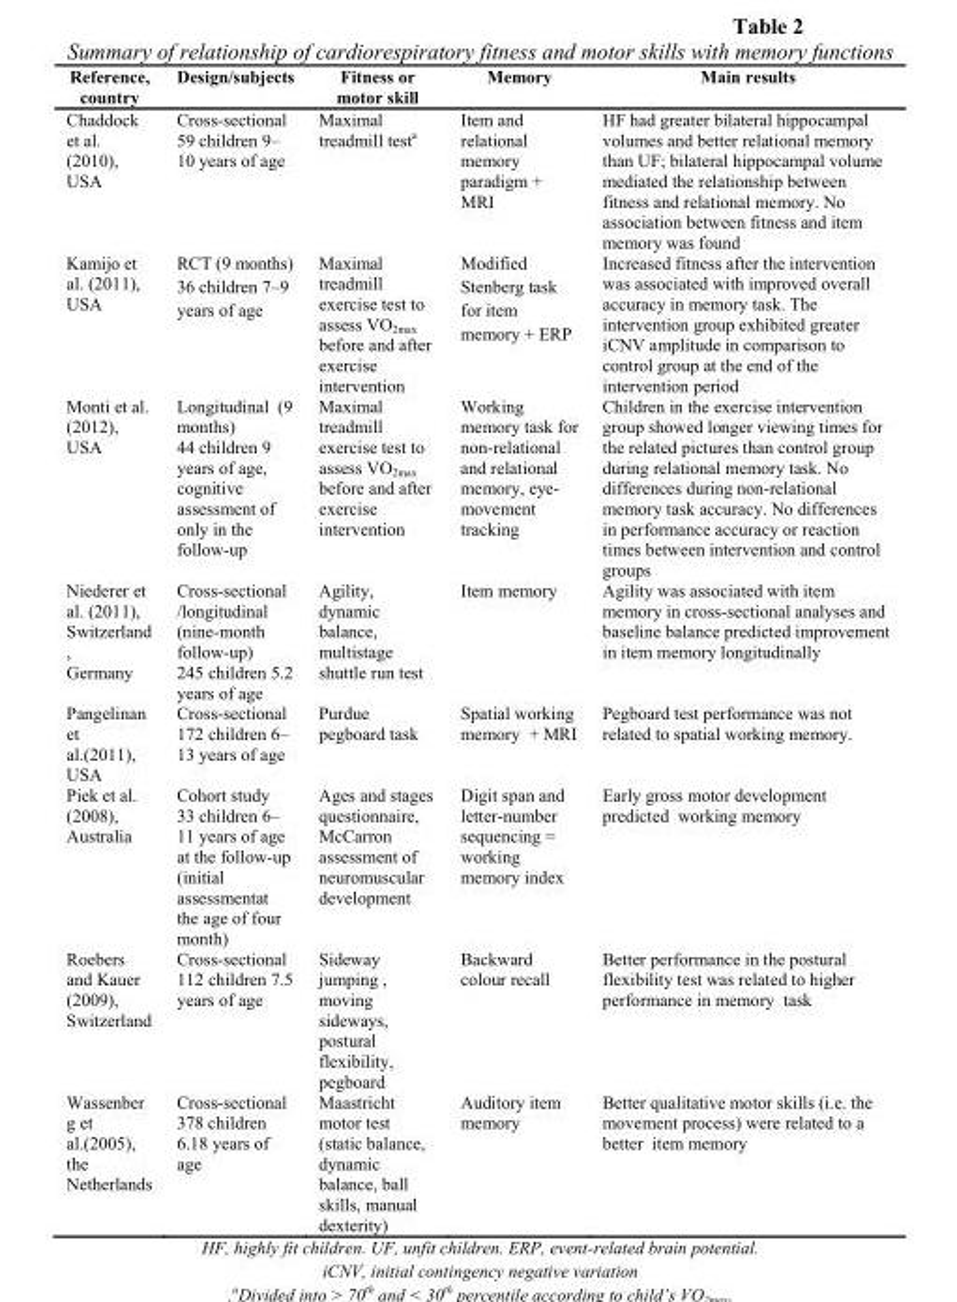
<table><thead><tr><td>Reference, country</td><td>Design/subjects</td><td>Fitness or motor skill</td><td>Memory</td><td>Main results</td></tr></thead><tbody><tr><td>Chaddock et al. (2010), USA</td><td>Cross-sectional 59 children 9– 10 years of age</td><td>Maximal treadmill test<sup>a</sup></td><td>Item and relational memory paradigm + MRI</td><td>HF had greater bilateral hippocampal volumes and better relational memory than UF; bilateral hippocampal volume mediated the relationship between fitness and relational memory. No association between fitness and item memory was found</td></tr><tr><td>Kamijo et al. (2011), USA</td><td>RCT (9 months) 36 children 7–9 years of age</td><td>Maximal treadmill exercise test to assess VO<sub>2max</sub> before and after exercise intervention</td><td>Modified Stenberg task for item memory + ERP</td><td>Increased fitness after the intervention was associated with improved overall accuracy in memory task. The intervention group exhibited greater iCNV amplitude in comparison to control group at the end of the intervention period</td></tr><tr><td>Monti et al. (2012), USA</td><td>Longitudinal (9 months) 44 children 9 years of age, cognitive assessment of only in the follow-up</td><td>Maximal treadmill exercise test to assess VO<sub>2max</sub> before and after exercise intervention</td><td>Working memory task for non-relational and relational memory, eye- movement tracking</td><td>Children in the exercise intervention group showed longer viewing times for the related pictures than control group during relational memory task. No differences during non-relational memory task accuracy. No differences in performance accuracy or reaction times between intervention and control groups</td></tr><tr><td>Niederer et al. (2011), Switzerland , Germany</td><td>Cross-sectional /longitudinal (nine-month follow-up) 245 children 5.2 years of age</td><td>Agility, dynamic balance, multistage shuttle run test</td><td>Item memory</td><td>Agility was associated with item memory in cross-sectional analyses and baseline balance predicted improvement in item memory longitudinally</td></tr><tr><td>Pangelinan et al.(2011), USA</td><td>Cross-sectional 172 children 6– 13 years of age</td><td>Purdue pegboard task</td><td>Spatial working memory + MRI</td><td>Pegboard test performance was not related to spatial working memory.</td></tr><tr><td>Piek et al. (2008), Australia</td><td>Cohort study 33 children 6– 11 years of age at the follow-up (initial assessmentat the age of four month)</td><td>Ages and stages questionnaire, McCarron assessment of neuromuscular development</td><td>Digit span and letter-number sequencing = working memory index</td><td>Early gross motor development predicted working memory</td></tr><tr><td>Roebers and Kauer (2009), Switzerland</td><td>Cross-sectional 112 children 7.5 years of age</td><td>Sideway jumping , moving sideways, postural flexibility, pegboard</td><td>Backward colour recall</td><td>Better performance in the postural flexibility test was related to higher performance in memory task</td></tr><tr><td>Wassenber g et al.(2005), the Netherlands</td><td>Cross-sectional 378 children 6.18 years of age</td><td>Maastricht motor test (static balance, dynamic balance, ball skills, manual dexterity)</td><td>Auditory item memory</td><td>Better qualitative motor skills (i.e. the movement process) were related to a better item memory</td></tr></tbody></table>